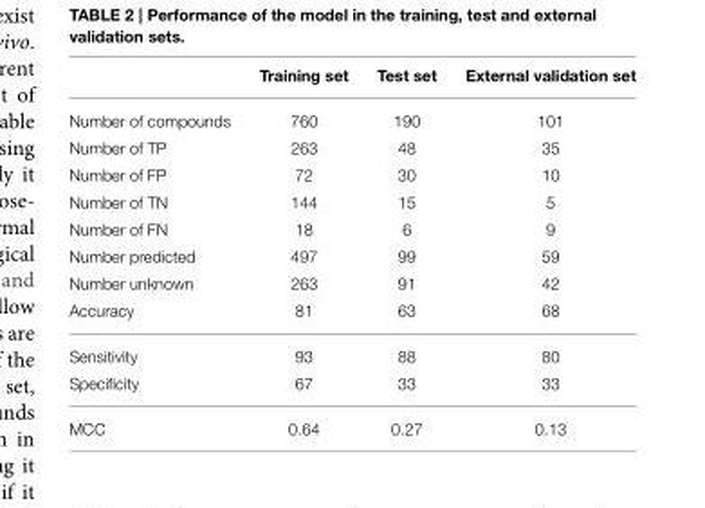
<table><thead><tr><td></td><td>Training set</td><td>Test set</td><td>External validation set</td></tr></thead><tbody><tr><td>Number of compounds</td><td>760</td><td>190</td><td>101</td></tr><tr><td>Number of TP</td><td>263</td><td>48</td><td>35</td></tr><tr><td>Number of FP</td><td>72</td><td>30</td><td>10</td></tr><tr><td>Number of TN</td><td>144</td><td>15</td><td>5</td></tr><tr><td>Number of FN</td><td>18</td><td>6</td><td>9</td></tr><tr><td>Number predicted</td><td>497</td><td>99</td><td>59</td></tr><tr><td>Number unknown</td><td>263</td><td>91</td><td>42</td></tr><tr><td>Accuracy</td><td>81</td><td>63</td><td>68</td></tr><tr><td>Sensitivity</td><td>93</td><td>88</td><td>80</td></tr><tr><td>Specificity</td><td>67</td><td>33</td><td>33</td></tr><tr><td>MCC</td><td>0.64</td><td>0.27</td><td>0.13</td></tr></tbody></table>